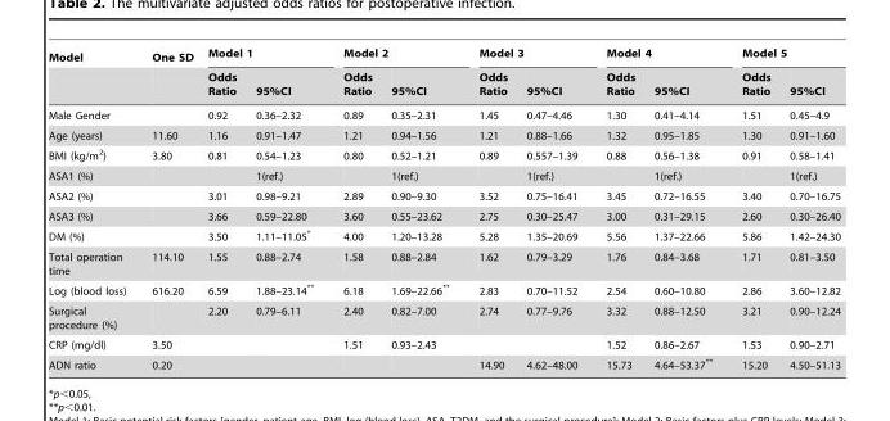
<table><thead><tr><td rowspan="2">Model</td><td rowspan="2">One SD</td><td colspan="2">Model 1</td><td colspan="2">Model 2</td><td colspan="2">Model 3</td><td colspan="2">Model 4</td><td colspan="2">Model 5</td></tr><tr><td>Odds Ratio</td><td>95%CI</td><td>Odds Ratio</td><td>95%CI</td><td>Odds Ratio</td><td>95%CI</td><td>Odds Ratio</td><td>95%CI</td><td>Odds Ratio</td><td>95%CI</td></tr></thead><tbody><tr><td>Male Gender</td><td></td><td>0.92</td><td>0.36–2.32</td><td>0.89</td><td>0.35–2.31</td><td>1.45</td><td>0.47–4.46</td><td>1.30</td><td>0.41–4.14</td><td>1.51</td><td>0.45–4.9</td></tr><tr><td>Age (years)</td><td>11.60</td><td>1.16</td><td>0.91–1.47</td><td>1.21</td><td>0.94–1.56</td><td>1.21</td><td>0.88–1.66</td><td>1.32</td><td>0.95–1.85</td><td>1.30</td><td>0.91–1.60</td></tr><tr><td>BMI (kg/m<sup>2</sup>)</td><td>3.80</td><td>0.81</td><td>0.54–1.23</td><td>0.80</td><td>0.52–1.21</td><td>0.89</td><td>0.557–1.39</td><td>0.88</td><td>0.56–1.38</td><td>0.91</td><td>0.58–1.41</td></tr><tr><td>ASA1 (%)</td><td></td><td></td><td>1(ref.)</td><td></td><td>1(ref.)</td><td></td><td>1(ref.)</td><td></td><td>1(ref.)</td><td></td><td>1(ref.)</td></tr><tr><td>ASA2 (%)</td><td></td><td>3.01</td><td>0.98–9.21</td><td>2.89</td><td>0.90–9.30</td><td>3.52</td><td>0.75–16.41</td><td>3.45</td><td>0.72–16.55</td><td>3.40</td><td>0.70–16.75</td></tr><tr><td>ASA3 (%)</td><td></td><td>3.66</td><td>0.59–22.80</td><td>3.60</td><td>0.55–23.62</td><td>2.75</td><td>0.30–25.47</td><td>3.00</td><td>0.31–29.15</td><td>2.60</td><td>0.30–26.40</td></tr><tr><td>DM (%)</td><td></td><td>3.50</td><td>1.11–11.05*</td><td>4.00</td><td>1.20–13.28</td><td>5.28</td><td>1.35–20.69</td><td>5.56</td><td>1.37–22.66</td><td>5.86</td><td>1.42–24.30</td></tr><tr><td>Total operation time</td><td>114.10</td><td>1.55</td><td>0.88–2.74</td><td>1.58</td><td>0.88–2.84</td><td>1.62</td><td>0.79–3.29</td><td>1.76</td><td>0.84–3.68</td><td>1.71</td><td>0.81–3.50</td></tr><tr><td>Log (blood loss)</td><td>616.20</td><td>6.59</td><td>1.88–23.14**</td><td>6.18</td><td>1.69–22.66**</td><td>2.83</td><td>0.70–11.52</td><td>2.54</td><td>0.60–10.80</td><td>2.86</td><td>3.60–12.82</td></tr><tr><td>Surgical procedure (%)</td><td></td><td>2.20</td><td>0.79–6.11</td><td>2.40</td><td>0.82–7.00</td><td>2.74</td><td>0.77–9.76</td><td>3.32</td><td>0.88–12.50</td><td>3.21</td><td>0.90–12.24</td></tr><tr><td>CRP (mg/dl)</td><td>3.50</td><td></td><td></td><td>1.51</td><td>0.93–2.43</td><td></td><td></td><td>1.52</td><td>0.86–2.67</td><td>1.53</td><td>0.90–2.71</td></tr><tr><td>ADN ratio</td><td>0.20</td><td></td><td></td><td></td><td></td><td>14.90</td><td>4.62–48.00</td><td>15.73</td><td>4.64–53.37**</td><td>15.20</td><td>4.50–51.13</td></tr></tbody></table>